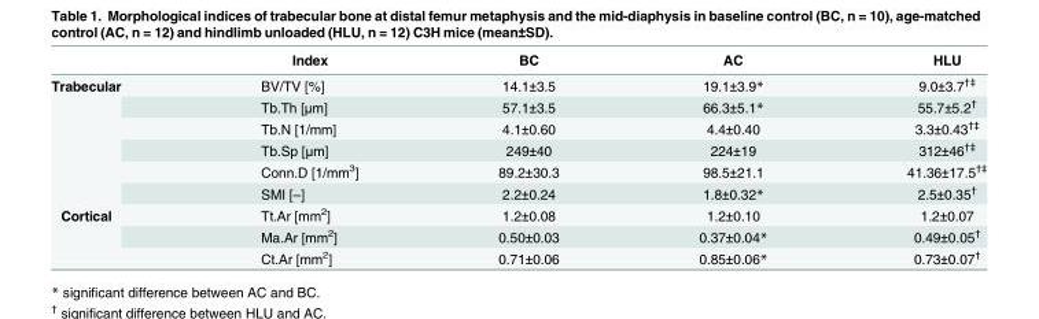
<table><thead><tr><td></td><td>Index</td><td>BC</td><td>AC</td><td>HLU</td></tr></thead><tbody><tr><td rowspan="6">Trabecular</td><td>BV/TV [%]</td><td>14.1±3.5</td><td>19.1±3.9*</td><td>9.0±3.7<sup>†‡</sup></td></tr><tr><td>Tb.Th [μm]</td><td>57.1±3.5</td><td>66.3±5.1*</td><td>55.7±5.2<sup>†</sup></td></tr><tr><td>Tb.N [1/mm]</td><td>4.1±0.60</td><td>4.4±0.40</td><td>3.3±0.43<sup>†‡</sup></td></tr><tr><td>Tb.Sp [μm]</td><td>249±40</td><td>224±19</td><td>312±46<sup>†‡</sup></td></tr><tr><td>Conn.D [1/mm<sup>3</sup>]</td><td>89.2±30.3</td><td>98.5±21.1</td><td>41.36±17.5<sup>†‡</sup></td></tr><tr><td>SMI [–]</td><td>2.2±0.24</td><td>1.8±0.32*</td><td>2.5±0.35<sup>†</sup></td></tr><tr><td rowspan="3">Cortical</td><td>Tt.Ar [mm<sup>2</sup>]</td><td>1.2±0.08</td><td>1.2±0.10</td><td>1.2±0.07</td></tr><tr><td>Ma.Ar [mm<sup>2</sup>]</td><td>0.50±0.03</td><td>0.37±0.04*</td><td>0.49±0.05<sup>†</sup></td></tr><tr><td>Ct.Ar [mm<sup>2</sup>]</td><td>0.71±0.06</td><td>0.85±0.06*</td><td>0.73±0.07<sup>†</sup></td></tr></tbody></table>